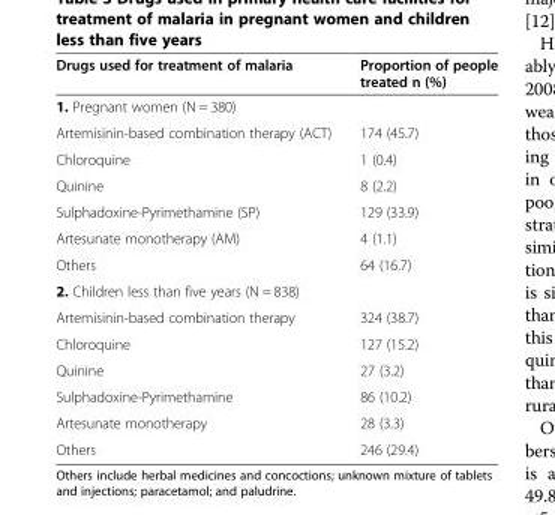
<table><thead><tr><td>Drugs used for treatment of malaria</td><td>Proportion of people treated n (%)</td></tr></thead><tbody><tr><td colspan="2">1. Pregnant women (N = 380)</td></tr><tr><td>Artemisinin-based combination therapy (ACT)</td><td>174 (45.7)</td></tr><tr><td>Chloroquine</td><td>1 (0.4)</td></tr><tr><td>Quinine</td><td>8 (2.2)</td></tr><tr><td>Sulphadoxine-Pyrimethamine (SP)</td><td>129 (33.9)</td></tr><tr><td>Artesunate monotherapy (AM)</td><td>4 (1.1)</td></tr><tr><td>Others</td><td>64 (16.7)</td></tr><tr><td colspan="2">2. Children less than five years (N = 838)</td></tr><tr><td>Artemisinin-based combination therapy</td><td>324 (38.7)</td></tr><tr><td>Chloroquine</td><td>127 (15.2)</td></tr><tr><td>Quinine</td><td>27 (3.2)</td></tr><tr><td>Sulphadoxine-Pyrimethamine</td><td>86 (10.2)</td></tr><tr><td>Artesunate monotherapy</td><td>28 (3.3)</td></tr><tr><td>Others</td><td>246 (29.4)</td></tr></tbody></table>